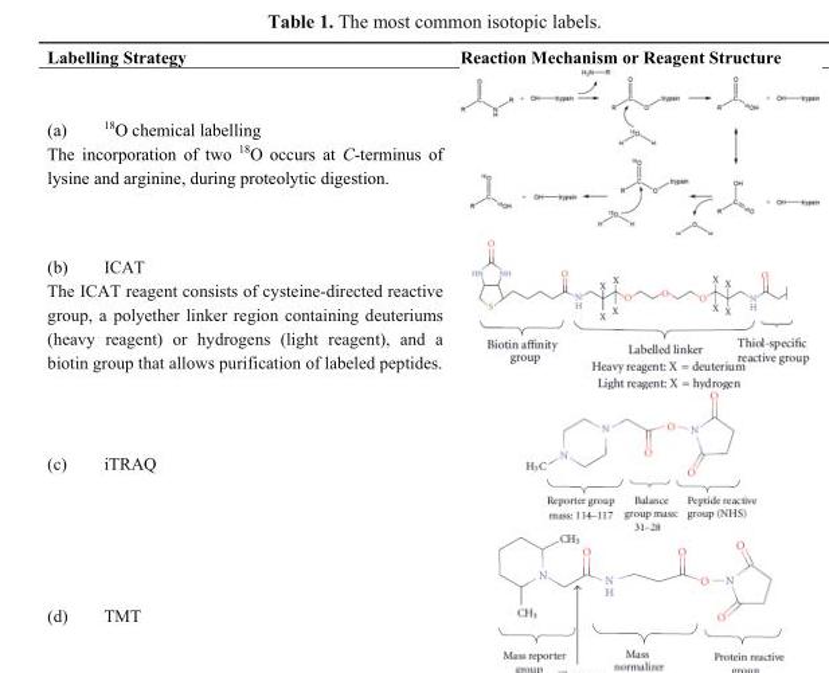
<table><thead><tr><td>Labelling Strategy</td><td>Reaction Mechanism or Reagent Structure</td></tr></thead><tbody><tr><td colspan="2">(a) <sup>18</sup>O chemical labelling The incorporation of two <sup>18</sup>O occurs at C-terminus of lysine and arginine, during proteolytic digestion.</td></tr><tr><td colspan="2">(b) ICAT The ICAT reagent consists of cysteine-directed reactive group, a polyether linker region containing deuteriums (heavy reagent) or hydrogens (light reagent), and a biotin group that allows purification of labeled peptides.</td></tr><tr><td colspan="2">(c) iTRAQ</td></tr><tr><td>(d) TMT</td><td></td></tr></tbody></table>